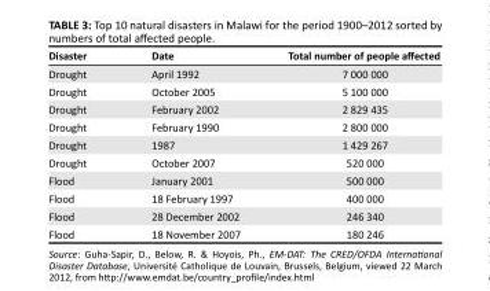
<table><thead><tr><td>Disaster</td><td>Date</td><td>Total number of people affected</td></tr></thead><tbody><tr><td>Drought</td><td>April 1992</td><td>7 000 000</td></tr><tr><td>Drought</td><td>October 2005</td><td>5 100 000</td></tr><tr><td>Drought</td><td>February 2002</td><td>2 829 435</td></tr><tr><td>Drought</td><td>February 1990</td><td>2 800 000</td></tr><tr><td>Drought</td><td>1987</td><td>1 429 267</td></tr><tr><td>Drought</td><td>October 2007</td><td>520 000</td></tr><tr><td>Flood</td><td>January 2001</td><td>500 000</td></tr><tr><td>Flood</td><td>18 February 1997</td><td>400 000</td></tr><tr><td>Flood</td><td>28 December 2002</td><td>246 340</td></tr><tr><td>Flood</td><td>18 November 2007</td><td>180 246</td></tr></tbody></table>